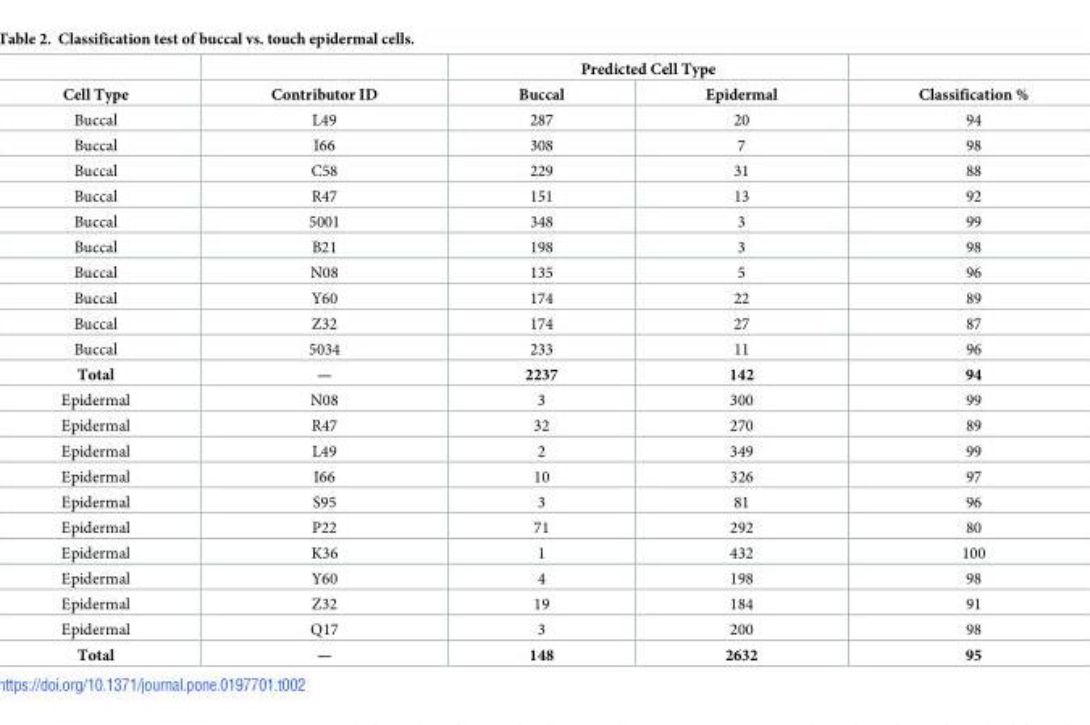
<table><thead><tr><td rowspan="2">Cell Type</td><td rowspan="2">Contributor ID</td><td colspan="2">Predicted Cell Type</td><td rowspan="2">Classification %</td></tr><tr><td>Buccal</td><td>Epidermal</td></tr></thead><tbody><tr><td>Buccal</td><td>L49</td><td>287</td><td>20</td><td>94</td></tr><tr><td>Buccal</td><td>I66</td><td>308</td><td>7</td><td>98</td></tr><tr><td>Buccal</td><td>C58</td><td>229</td><td>31</td><td>88</td></tr><tr><td>Buccal</td><td>R47</td><td>151</td><td>13</td><td>92</td></tr><tr><td>Buccal</td><td>5001</td><td>348</td><td>3</td><td>99</td></tr><tr><td>Buccal</td><td>B21</td><td>198</td><td>3</td><td>98</td></tr><tr><td>Buccal</td><td>N08</td><td>135</td><td>5</td><td>96</td></tr><tr><td>Buccal</td><td>Y60</td><td>174</td><td>22</td><td>89</td></tr><tr><td>Buccal</td><td>Z32</td><td>174</td><td>27</td><td>87</td></tr><tr><td>Buccal</td><td>5034</td><td>233</td><td>11</td><td>96</td></tr><tr><td>Total</td><td>—</td><td>2237</td><td>142</td><td>94</td></tr><tr><td>Epidermal</td><td>N08</td><td>3</td><td>300</td><td>99</td></tr><tr><td>Epidermal</td><td>R47</td><td>32</td><td>270</td><td>89</td></tr><tr><td>Epidermal</td><td>L49</td><td>2</td><td>349</td><td>99</td></tr><tr><td>Epidermal</td><td>I66</td><td>10</td><td>326</td><td>97</td></tr><tr><td>Epidermal</td><td>S95</td><td>3</td><td>81</td><td>96</td></tr><tr><td>Epidermal</td><td>P22</td><td>71</td><td>292</td><td>80</td></tr><tr><td>Epidermal</td><td>K36</td><td>1</td><td>432</td><td>100</td></tr><tr><td>Epidermal</td><td>Y60</td><td>4</td><td>198</td><td>98</td></tr><tr><td>Epidermal</td><td>Z32</td><td>19</td><td>184</td><td>91</td></tr><tr><td>Epidermal</td><td>Q17</td><td>3</td><td>200</td><td>98</td></tr><tr><td>Total</td><td>—</td><td>148</td><td>2632</td><td>95</td></tr></tbody></table>